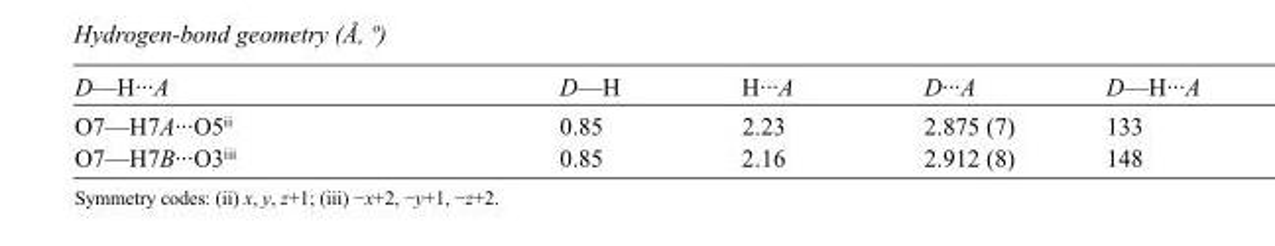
<table><tbody><tr><td>D—H···A</td><td>D—H</td><td>H···A</td><td>D···A</td><td>D—H···A</td></tr><tr><td>O7—H7A···O5<sup>ii</sup></td><td>0.85</td><td>2.23</td><td>2.875 (7)</td><td>133</td></tr><tr><td>O7—H7B···O3<sup>iii</sup></td><td>0.85</td><td>2.16</td><td>2.912 (8)</td><td>148</td></tr></tbody></table>